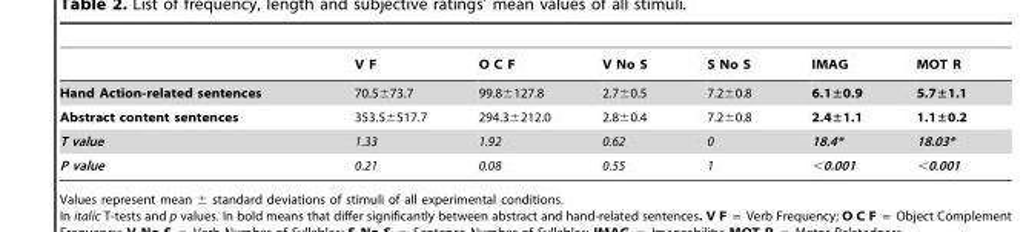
<table><thead><tr><td></td><td>V F</td><td>O C F</td><td>V No S</td><td>S No S</td><td>IMAG</td><td>MOT R</td></tr></thead><tbody><tr><td>Hand Action-related sentences</td><td>70.5±73.7</td><td>99.8±127.8</td><td>2.7±0.5</td><td>7.2±0.8</td><td>6.1±0.9</td><td>5.7±1.1</td></tr><tr><td>Abstract content sentences</td><td>353.5±517.7</td><td>294.3±212.0</td><td>2.8±0.4</td><td>7.2±0.8</td><td>2.4±1.1</td><td>1.1±0.2</td></tr><tr><td>T value</td><td>1.33</td><td>1.92</td><td>0.62</td><td>0</td><td>18.4*</td><td>18.03*</td></tr><tr><td>P value</td><td>0.21</td><td>0.08</td><td>0.55</td><td>1</td><td>&lt;0.001</td><td>&lt;0.001</td></tr></tbody></table>